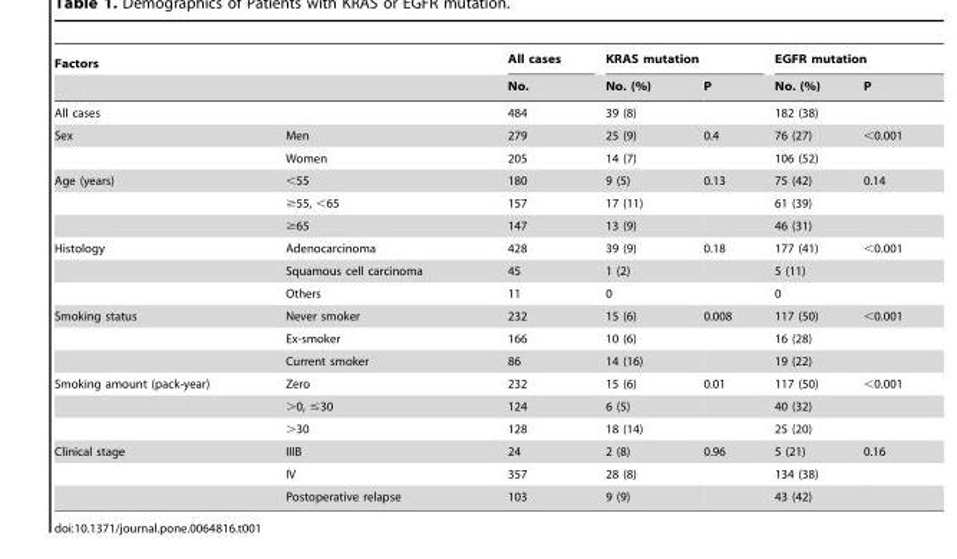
<table><thead><tr><td colspan="2">Factors</td><td rowspan="2">All cases No.</td><td colspan="2">KRAS mutation</td><td colspan="2">EGFR mutation</td></tr><tr><td></td><td></td><td>No. (%)</td><td>P</td><td>No. (%)</td><td>P</td></tr></thead><tbody><tr><td>All cases</td><td></td><td>484</td><td>39 (8)</td><td></td><td>182 (38)</td><td></td></tr><tr><td rowspan="2">Sex</td><td>Men</td><td>279</td><td>25 (9)</td><td>0.4</td><td>76 (27)</td><td>&lt;0.001</td></tr><tr><td>Women</td><td>205</td><td>14 (7)</td><td></td><td>106 (52)</td><td></td></tr><tr><td rowspan="3">Age (years)</td><td>&lt;55</td><td>180</td><td>9 (5)</td><td>0.13</td><td>75 (42)</td><td>0.14</td></tr><tr><td>≥55, &lt;65</td><td>157</td><td>17 (11)</td><td></td><td>61 (39)</td><td></td></tr><tr><td>≥65</td><td>147</td><td>13 (9)</td><td></td><td>46 (31)</td><td></td></tr><tr><td rowspan="3">Histology</td><td>Adenocarcinoma</td><td>428</td><td>39 (9)</td><td>0.18</td><td>177 (41)</td><td>&lt;0.001</td></tr><tr><td>Squamous cell carcinoma</td><td>45</td><td>1 (2)</td><td></td><td>5 (11)</td><td></td></tr><tr><td>Others</td><td>11</td><td>0</td><td></td><td>0</td><td></td></tr><tr><td rowspan="3">Smoking status</td><td>Never smoker</td><td>232</td><td>15 (6)</td><td>0.008</td><td>117 (50)</td><td>&lt;0.001</td></tr><tr><td>Ex-smoker</td><td>166</td><td>10 (6)</td><td></td><td>16 (28)</td><td></td></tr><tr><td>Current smoker</td><td>86</td><td>14 (16)</td><td></td><td>19 (22)</td><td></td></tr><tr><td rowspan="3">Smoking amount (pack-year)</td><td>Zero</td><td>232</td><td>15 (6)</td><td>0.01</td><td>117 (50)</td><td>&lt;0.001</td></tr><tr><td>&gt;0, ≤30</td><td>124</td><td>6 (5)</td><td></td><td>40 (32)</td><td></td></tr><tr><td>&gt;30</td><td>128</td><td>18 (14)</td><td></td><td>25 (20)</td><td></td></tr><tr><td rowspan="3">Clinical stage</td><td>IIIB</td><td>24</td><td>2 (8)</td><td>0.96</td><td>5 (21)</td><td>0.16</td></tr><tr><td>IV</td><td>357</td><td>28 (8)</td><td></td><td>134 (38)</td><td></td></tr><tr><td>Postoperative relapse</td><td>103</td><td>9 (9)</td><td></td><td>43 (42)</td><td></td></tr></tbody></table>